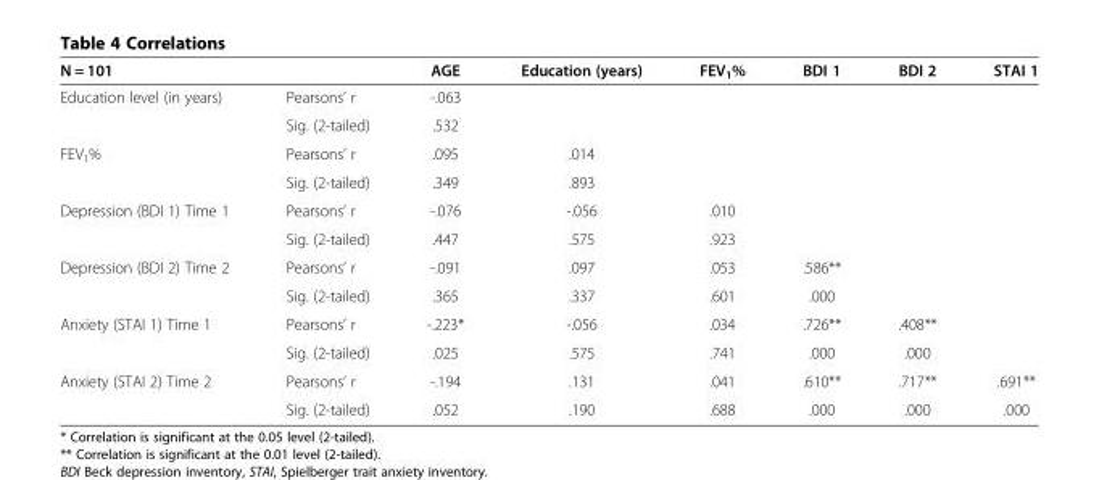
<table><thead><tr><td>N = 101</td><td></td><td>AGE</td><td>Education (years)</td><td>FEV<sub>1</sub>%</td><td>BDI 1</td><td>BDI 2</td><td>STAI 1</td></tr></thead><tbody><tr><td rowspan="2">Education level (in years)</td><td>Pearsons’ r</td><td>-.063</td><td></td><td></td><td></td><td></td><td></td></tr><tr><td>Sig. (2-tailed)</td><td>.532</td><td></td><td></td><td></td><td></td><td></td></tr><tr><td rowspan="2">FEV<sub>1</sub>%</td><td>Pearsons’ r</td><td>.095</td><td>.014</td><td></td><td></td><td></td><td></td></tr><tr><td>Sig. (2-tailed)</td><td>.349</td><td>.893</td><td></td><td></td><td></td><td></td></tr><tr><td rowspan="2">Depression (BDI 1) Time 1</td><td>Pearsons’ r</td><td>-.076</td><td>-.056</td><td>.010</td><td></td><td></td><td></td></tr><tr><td>Sig. (2-tailed)</td><td>.447</td><td>.575</td><td>.923</td><td></td><td></td><td></td></tr><tr><td rowspan="2">Depression (BDI 2) Time 2</td><td>Pearsons’ r</td><td>-.091</td><td>.097</td><td>.053</td><td>.586**</td><td></td><td></td></tr><tr><td>Sig. (2-tailed)</td><td>.365</td><td>.337</td><td>.601</td><td>.000</td><td></td><td></td></tr><tr><td rowspan="2">Anxiety (STAI 1) Time 1</td><td>Pearsons’ r</td><td>-.223*</td><td>-.056</td><td>.034</td><td>.726**</td><td>.408**</td><td></td></tr><tr><td>Sig. (2-tailed)</td><td>.025</td><td>.575</td><td>.741</td><td>.000</td><td>.000</td><td></td></tr><tr><td rowspan="2">Anxiety (STAI 2) Time 2</td><td>Pearsons’ r</td><td>-.194</td><td>.131</td><td>.041</td><td>.610**</td><td>.717**</td><td>.691**</td></tr><tr><td>Sig. (2-tailed)</td><td>.052</td><td>.190</td><td>.688</td><td>.000</td><td>.000</td><td>.000</td></tr></tbody></table>